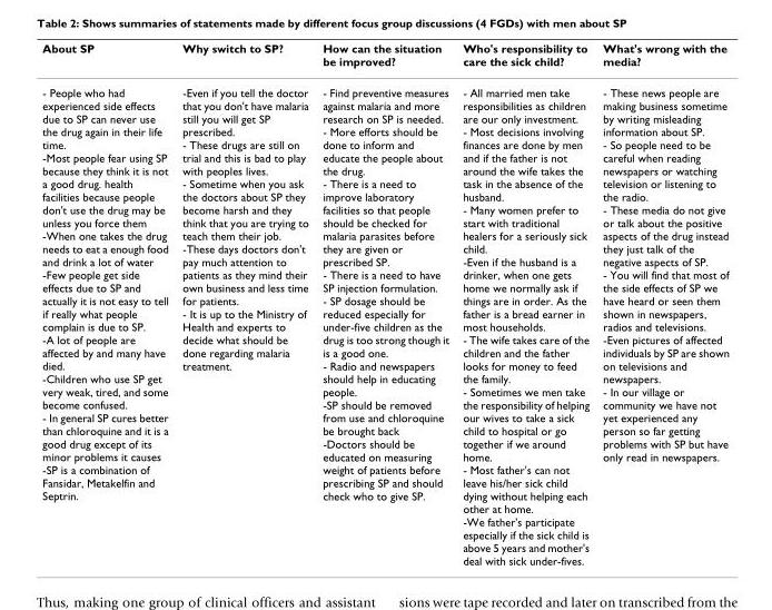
<table><thead><tr><td>About SP</td><td>Why switch to SP?</td><td>How can the situation be improved?</td><td>Who&#x27;s responsibility to care the sick child?</td><td>What&#x27;s wrong with the media?</td></tr></thead><tbody><tr><td>- People who had experienced side effects due to SP can never use the drug again in their life time. -Most people fear using SP because they think it is not a good drug. health facilities because people don&#x27;t use the drug may be unless you force them -When one takes the drug needs to eat a enough food and drink a lot of water -Few people get side effects due to SP and actually it is not easy to tell if really what people complain is due to SP. -A lot of people are affected by and many have died. -Children who use SP get very weak, tired, and some become confused. - In general SP cures better than chloroquine and it is a good drug except of its minor problems it causes -SP is a combination of Fansidar, Metakelfin and Septrin.</td><td>-Even if you tell the doctor that you don&#x27;t have malaria still you will get SP prescribed. - These drugs are still on trial and this is bad to play with peoples lives. - Sometime when you ask the doctors about SP they become harsh and they think that you are trying to teach them their job. -These days doctors don&#x27;t pay much attention to patients as they mind their own business and less time for patients. - It is up to the Ministry of Health and experts to decide what should be done regarding malaria treatment.</td><td>- Find preventive measures against malaria and more research on SP is needed. - More efforts should be done to inform and educate the people about the drug. - There is a need to improve laboratory facilities so that people should be checked for malaria parasites before they are given or prescribed SP. - There is a need to have SP injection formulation. - SP dosage should be reduced especially for under-five children as the drug is too strong though it is a good one. - Radio and newspapers should help in educating people. -SP should be removed from use and chloroquine be brought back -Doctors should be educated on measuring weight of patients before prescribing SP and should check who to give SP.</td><td>- All married men take responsibilities as children are our only investment. - Most decisions involving finances are done by men and if the father is not around the wife takes the task in the absence of the husband. - Many women prefer to start with traditional healers for a seriously sick child. -Even if the husband is a drinker, when one gets home we normally ask if things are in order. As the father is a bread earner in most households. - The wife takes care of the children and the father looks for money to feed the family. - Sometimes we men take the responsibility of helping our wives to take a sick child to hospital or go together if we around home. - Most father&#x27;s can not leave his/her sick child dying without helping each other at home. -We father&#x27;s participate especially if the sick child is above 5 years and mother&#x27;s deal with sick under-fives.</td><td>- These news people are making business sometime by writing misleading information about SP. - So people need to be careful when reading newspapers or watching television or listening to the radio. - These media do not give or talk about the positive aspects of the drug instead they just talk of the negative aspects of SP. - You will find that most of the side effects of SP we have heard or seen them shown in newspapers, radios and televisions. -Even pictures of affected individuals by SP are shown on televisions and newspapers. - In our village or community we have not yet experienced any person so far getting problems with SP but have only read in newspapers.</td></tr></tbody></table>